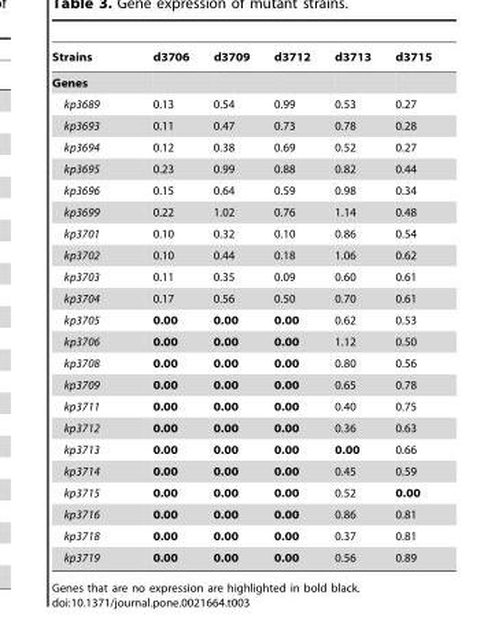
<table><thead><tr><td>Strains</td><td>d3706</td><td>d3709</td><td>d3712</td><td>d3713</td><td>d3715</td></tr></thead><tbody><tr><td colspan="6">Genes</td></tr><tr><td>kp3689</td><td>0.13</td><td>0.54</td><td>0.99</td><td>0.53</td><td>0.27</td></tr><tr><td>kp3693</td><td>0.11</td><td>0.47</td><td>0.73</td><td>0.78</td><td>0.28</td></tr><tr><td>kp3694</td><td>0.12</td><td>0.38</td><td>0.69</td><td>0.52</td><td>0.27</td></tr><tr><td>kp3695</td><td>0.23</td><td>0.99</td><td>0.88</td><td>0.82</td><td>0.44</td></tr><tr><td>kp3696</td><td>0.15</td><td>0.64</td><td>0.59</td><td>0.98</td><td>0.34</td></tr><tr><td>kp3699</td><td>0.22</td><td>1.02</td><td>0.76</td><td>1.14</td><td>0.48</td></tr><tr><td>kp3701</td><td>0.10</td><td>0.32</td><td>0.10</td><td>0.86</td><td>0.54</td></tr><tr><td>kp3702</td><td>0.10</td><td>0.44</td><td>0.18</td><td>1.06</td><td>0.62</td></tr><tr><td>kp3703</td><td>0.11</td><td>0.35</td><td>0.09</td><td>0.60</td><td>0.61</td></tr><tr><td>kp3704</td><td>0.17</td><td>0.56</td><td>0.50</td><td>0.70</td><td>0.61</td></tr><tr><td>kp3705</td><td>0.00</td><td>0.00</td><td>0.00</td><td>0.62</td><td>0.53</td></tr><tr><td>kp3706</td><td>0.00</td><td>0.00</td><td>0.00</td><td>1.12</td><td>0.50</td></tr><tr><td>kp3708</td><td>0.00</td><td>0.00</td><td>0.00</td><td>0.80</td><td>0.56</td></tr><tr><td>kp3709</td><td>0.00</td><td>0.00</td><td>0.00</td><td>0.65</td><td>0.78</td></tr><tr><td>kp3711</td><td>0.00</td><td>0.00</td><td>0.00</td><td>0.40</td><td>0.75</td></tr><tr><td>kp3712</td><td>0.00</td><td>0.00</td><td>0.00</td><td>0.36</td><td>0.63</td></tr><tr><td>kp3713</td><td>0.00</td><td>0.00</td><td>0.00</td><td>0.00</td><td>0.66</td></tr><tr><td>kp3714</td><td>0.00</td><td>0.00</td><td>0.00</td><td>0.45</td><td>0.59</td></tr><tr><td>kp3715</td><td>0.00</td><td>0.00</td><td>0.00</td><td>0.52</td><td>0.00</td></tr><tr><td>kp3716</td><td>0.00</td><td>0.00</td><td>0.00</td><td>0.86</td><td>0.81</td></tr><tr><td>kp3718</td><td>0.00</td><td>0.00</td><td>0.00</td><td>0.37</td><td>0.81</td></tr><tr><td>kp3719</td><td>0.00</td><td>0.00</td><td>0.00</td><td>0.56</td><td>0.89</td></tr></tbody></table>